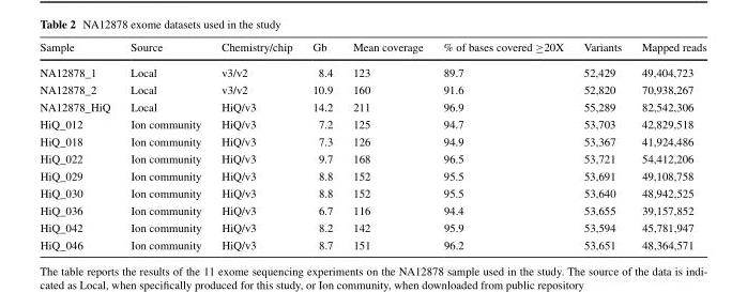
<table><thead><tr><td>Sample</td><td>Source</td><td>Chemistry/chip</td><td>Gb</td><td>Mean coverage</td><td>% of bases covered ≥20X</td><td>Variants</td><td>Mapped reads</td></tr></thead><tbody><tr><td>NA12878_1</td><td>Local</td><td>v3/v2</td><td>8.4</td><td>123</td><td>89.7</td><td>52,429</td><td>49,404,723</td></tr><tr><td>NA12878_2</td><td>Local</td><td>v3/v2</td><td>10.9</td><td>160</td><td>91.6</td><td>52,820</td><td>70,938,267</td></tr><tr><td>NA12878_HiQ</td><td>Local</td><td>HiQ/v3</td><td>14.2</td><td>211</td><td>96.9</td><td>55,289</td><td>82,542,306</td></tr><tr><td>HiQ_012</td><td>Ion community</td><td>HiQ/v3</td><td>7.2</td><td>125</td><td>94.7</td><td>53,703</td><td>42,829,518</td></tr><tr><td>HiQ_018</td><td>Ion community</td><td>HiQ/v3</td><td>7.3</td><td>126</td><td>94.9</td><td>53,367</td><td>41,924,486</td></tr><tr><td>HiQ_022</td><td>Ion community</td><td>HiQ/v3</td><td>9.7</td><td>168</td><td>96.5</td><td>53,721</td><td>54,412,206</td></tr><tr><td>HiQ_029</td><td>Ion community</td><td>HiQ/v3</td><td>8.8</td><td>152</td><td>95.5</td><td>53,691</td><td>49,108,758</td></tr><tr><td>HiQ_030</td><td>Ion community</td><td>HiQ/v3</td><td>8.8</td><td>152</td><td>95.5</td><td>53,640</td><td>48,942,525</td></tr><tr><td>HiQ_036</td><td>Ion community</td><td>HiQ/v3</td><td>6.7</td><td>116</td><td>94.4</td><td>53,655</td><td>39,157,852</td></tr><tr><td>HiQ_042</td><td>Ion community</td><td>HiQ/v3</td><td>8.2</td><td>142</td><td>95.9</td><td>53,594</td><td>45,781,947</td></tr><tr><td>HiQ_046</td><td>Ion community</td><td>HiQ/v3</td><td>8.7</td><td>151</td><td>96.2</td><td>53,651</td><td>48,364,571</td></tr></tbody></table>